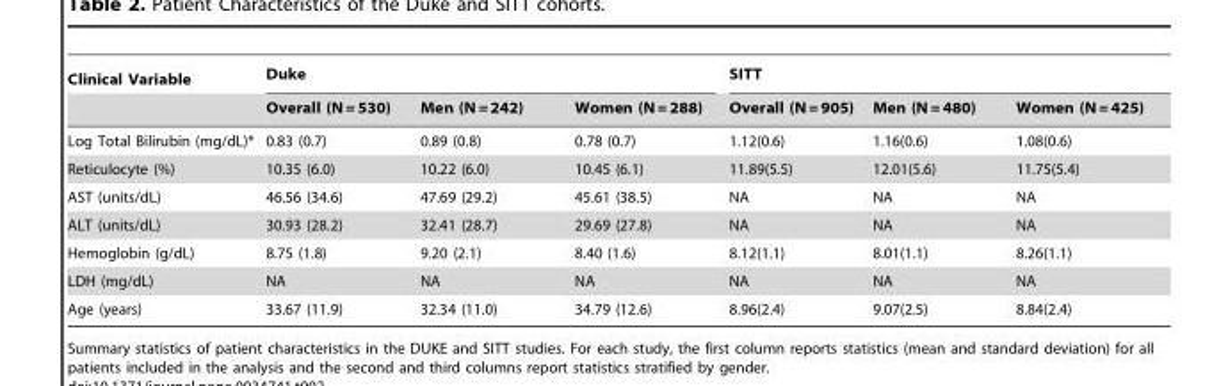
<table><thead><tr><td rowspan="2">Clinical Variable</td><td colspan="3">Duke</td><td colspan="3">SITT</td></tr><tr><td>Overall (N = 530)</td><td>Men (N = 242)</td><td>Women (N = 288)</td><td>Overall (N = 905)</td><td>Men (N = 480)</td><td>Women (N = 425)</td></tr></thead><tbody><tr><td>Log Total Bilirubin (mg/dL)*</td><td>0.83 (0.7)</td><td>0.89 (0.8)</td><td>0.78 (0.7)</td><td>1.12(0.6)</td><td>1.16(0.6)</td><td>1.08(0.6)</td></tr><tr><td>Reticulocyte (%)</td><td>10.35 (6.0)</td><td>10.22 (6.0)</td><td>10.45 (6.1)</td><td>11.89(5.5)</td><td>12.01(5.6)</td><td>11.75(5.4)</td></tr><tr><td>AST (units/dL)</td><td>46.56 (34.6)</td><td>47.69 (29.2)</td><td>45.61 (38.5)</td><td>NA</td><td>NA</td><td>NA</td></tr><tr><td>ALT (units/dL)</td><td>30.93 (28.2)</td><td>32.41 (28.7)</td><td>29.69 (27.8)</td><td>NA</td><td>NA</td><td>NA</td></tr><tr><td>Hemoglobin (g/dL)</td><td>8.75 (1.8)</td><td>9.20 (2.1)</td><td>8.40 (1.6)</td><td>8.12(1.1)</td><td>8.01(1.1)</td><td>8.26(1.1)</td></tr><tr><td>LDH (mg/dL)</td><td>NA</td><td>NA</td><td>NA</td><td>NA</td><td>NA</td><td>NA</td></tr><tr><td>Age (years)</td><td>33.67 (11.9)</td><td>32.34 (11.0)</td><td>34.79 (12.6)</td><td>8.96(2.4)</td><td>9.07(2.5)</td><td>8.84(2.4)</td></tr></tbody></table>